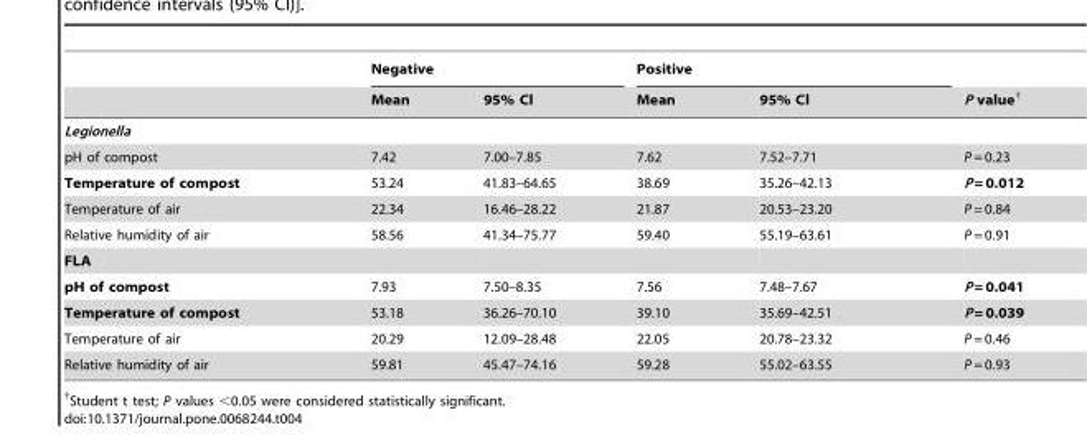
<table><thead><tr><td rowspan="2"></td><td colspan="2">Negative</td><td colspan="2">Positive</td><td rowspan="2">P value†</td></tr><tr><td>Mean</td><td>95% Cl</td><td>Mean</td><td>95% Cl</td></tr></thead><tbody><tr><td colspan="6">Legionella</td></tr><tr><td>pH of compost</td><td>7.42</td><td>7.00–7.85</td><td>7.62</td><td>7.52–7.71</td><td>P = 0.23</td></tr><tr><td>Temperature of compost</td><td>53.24</td><td>41.83–64.65</td><td>38.69</td><td>35.26–42.13</td><td>P = 0.012</td></tr><tr><td>Temperature of air</td><td>22.34</td><td>16.46–28.22</td><td>21.87</td><td>20.53–23.20</td><td>P = 0.84</td></tr><tr><td>Relative humidity of air</td><td>58.56</td><td>41.34–75.77</td><td>59.40</td><td>55.19–63.61</td><td>P = 0.91</td></tr><tr><td colspan="6">FLA</td></tr><tr><td>pH of compost</td><td>7.93</td><td>7.50–8.35</td><td>7.56</td><td>7.48–7.67</td><td>P = 0.041</td></tr><tr><td>Temperature of compost</td><td>53.18</td><td>36.26–70.10</td><td>39.10</td><td>35.69–42.51</td><td>P = 0.039</td></tr><tr><td>Temperature of air</td><td>20.29</td><td>12.09–28.48</td><td>22.05</td><td>20.78–23.32</td><td>P = 0.46</td></tr><tr><td>Relative humidity of air</td><td>59.81</td><td>45.47–74.16</td><td>59.28</td><td>55.02–63.55</td><td>P = 0.93</td></tr></tbody></table>